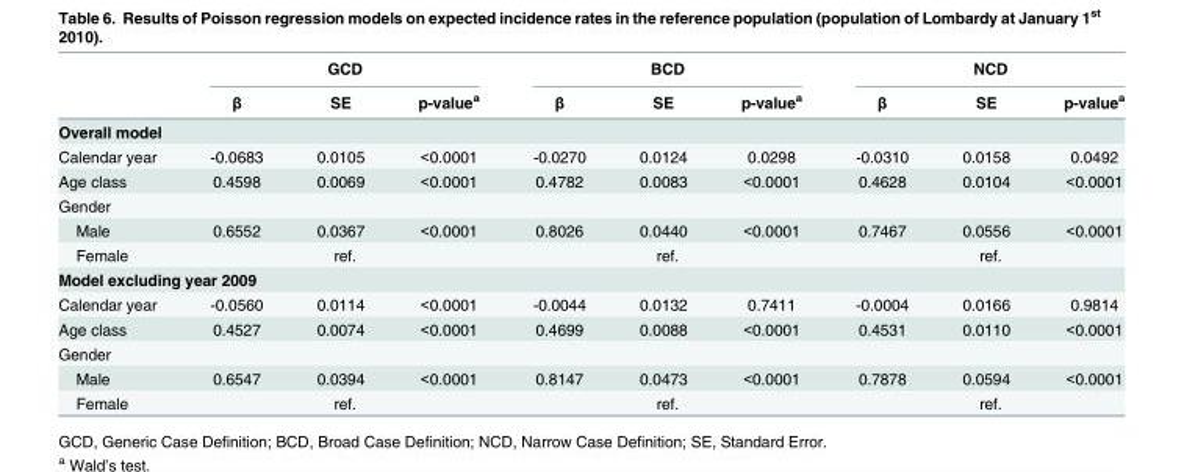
<table><thead><tr><td rowspan="2"></td><td colspan="3">GCD</td><td colspan="3">BCD</td><td colspan="3">NCD</td></tr><tr><td>β</td><td>SE</td><td>p-value<sup>a</sup></td><td>β</td><td>SE</td><td>p-value<sup>a</sup></td><td>β</td><td>SE</td><td>p-value<sup>a</sup></td></tr></thead><tbody><tr><td colspan="10">Overall model</td></tr><tr><td>Calendar year</td><td>-0.0683</td><td>0.0105</td><td>&lt;0.0001</td><td>-0.0270</td><td>0.0124</td><td>0.0298</td><td>-0.0310</td><td>0.0158</td><td>0.0492</td></tr><tr><td>Age class</td><td>0.4598</td><td>0.0069</td><td>&lt;0.0001</td><td>0.4782</td><td>0.0083</td><td>&lt;0.0001</td><td>0.4628</td><td>0.0104</td><td>&lt;0.0001</td></tr><tr><td colspan="10">Gender</td></tr><tr><td>Male</td><td>0.6552</td><td>0.0367</td><td>&lt;0.0001</td><td>0.8026</td><td>0.0440</td><td>&lt;0.0001</td><td>0.7467</td><td>0.0556</td><td>&lt;0.0001</td></tr><tr><td>Female</td><td colspan="3">ref.</td><td colspan="3">ref.</td><td colspan="3">ref.</td></tr><tr><td colspan="10">Model excluding year 2009</td></tr><tr><td>Calendar year</td><td>-0.0560</td><td>0.0114</td><td>&lt;0.0001</td><td>-0.0044</td><td>0.0132</td><td>0.7411</td><td>-0.0004</td><td>0.0166</td><td>0.9814</td></tr><tr><td>Age class</td><td>0.4527</td><td>0.0074</td><td>&lt;0.0001</td><td>0.4699</td><td>0.0088</td><td>&lt;0.0001</td><td>0.4531</td><td>0.0110</td><td>&lt;0.0001</td></tr><tr><td colspan="10">Gender</td></tr><tr><td>Male</td><td>0.6547</td><td>0.0394</td><td>&lt;0.0001</td><td>0.8147</td><td>0.0473</td><td>&lt;0.0001</td><td>0.7878</td><td>0.0594</td><td>&lt;0.0001</td></tr><tr><td>Female</td><td colspan="3">ref.</td><td colspan="3">ref.</td><td colspan="3">ref.</td></tr></tbody></table>